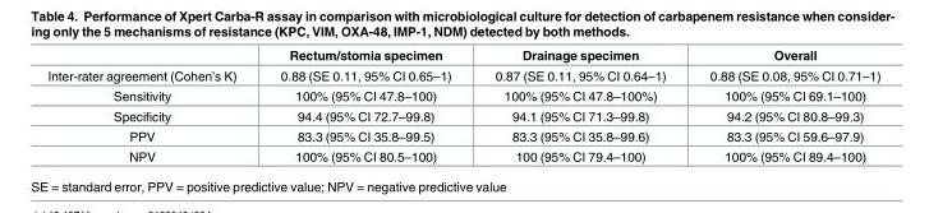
<table><thead><tr><td></td><td>Rectum/stomia specimen</td><td>Drainage specimen</td><td>Overall</td></tr></thead><tbody><tr><td>Inter-rater agreement (Cohen’s K)</td><td>0.88 (SE 0.11, 95% CI 0.65–1)</td><td>0.87 (SE 0.11, 95% CI 0.64–1)</td><td>0.88 (SE 0.08, 95% CI 0.71–1)</td></tr><tr><td>Sensitivity</td><td>100% (95% CI 47.8–100)</td><td>100% (95% CI 47.8–100%)</td><td>100% (95% CI 69.1–100)</td></tr><tr><td>Specificity</td><td>94.4 (95% CI 72.7–99.8)</td><td>94.1 (95% CI 71.3–99.8)</td><td>94.2 (95% CI 80.8–99.3)</td></tr><tr><td>PPV</td><td>83.3 (95% CI 35.8–99.5)</td><td>83.3 (95% CI 35.8–99.6)</td><td>83.3 (95% CI 59.6–97.9)</td></tr><tr><td>NPV</td><td>100% (95% CI 80.5–100)</td><td>100 (95% CI 79.4–100)</td><td>100% (95% CI 89.4–100)</td></tr></tbody></table>